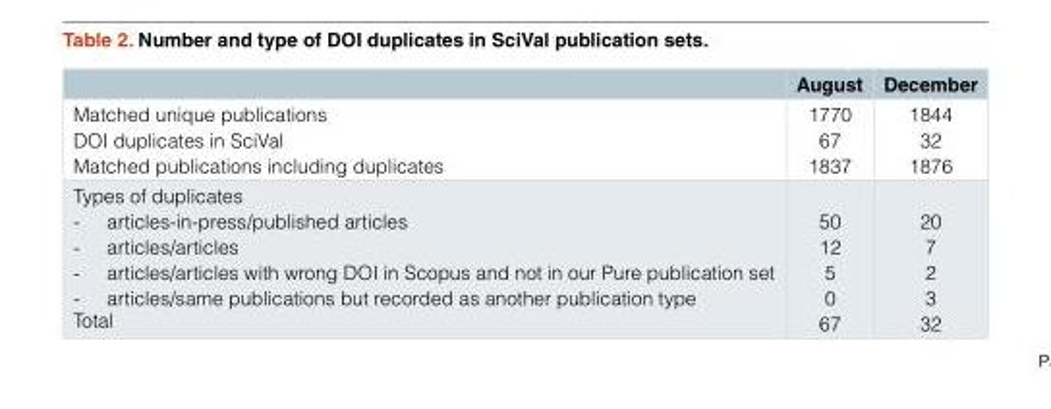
<table><thead><tr><td></td><td>August</td><td>December</td></tr></thead><tbody><tr><td>Matched unique publications DOI duplicates in SciVal Matched publications including duplicates</td><td>1770 67 1837</td><td>1844 32 1876</td></tr><tr><td>Types of duplicates - articles-in-press/published articles - articles/articles - articles/articles with wrong DOI in Scopus and not in our Pure publication set - articles/same publications but recorded as another publication type Total</td><td>50 12 5 0 67</td><td>20 7 2 3 32</td></tr></tbody></table>